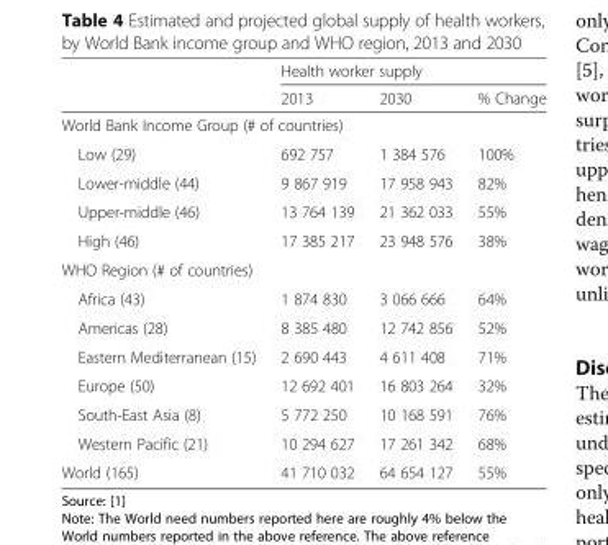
<table><thead><tr><td rowspan="2"></td><td colspan="3">Health worker supply</td></tr><tr><td>2013</td><td>2030</td><td>% Change</td></tr></thead><tbody><tr><td colspan="4">World Bank Income Group (# of countries)</td></tr><tr><td>Low (29)</td><td>692 757</td><td>1 384 576</td><td>100%</td></tr><tr><td>Lower-middle (44)</td><td>9 867 919</td><td>17 958 943</td><td>82%</td></tr><tr><td>Upper-middle (46)</td><td>13 764 139</td><td>21 362 033</td><td>55%</td></tr><tr><td>High (46)</td><td>17 385 217</td><td>23 948 576</td><td>38%</td></tr><tr><td colspan="4">WHO Region (# of countries)</td></tr><tr><td>Africa (43)</td><td>1 874 830</td><td>3 066 666</td><td>64%</td></tr><tr><td>Americas (28)</td><td>8 385 480</td><td>12 742 856</td><td>52%</td></tr><tr><td>Eastern Mediterranean (15)</td><td>2 690 443</td><td>4 611 408</td><td>71%</td></tr><tr><td>Europe (50)</td><td>12 692 401</td><td>16 803 264</td><td>32%</td></tr><tr><td>South-East Asia (8)</td><td>5 772 250</td><td>10 168 591</td><td>76%</td></tr><tr><td>Western Pacific (21)</td><td>10 294 627</td><td>17 261 342</td><td>68%</td></tr><tr><td>World (165)</td><td>41 710 032</td><td>64 654 127</td><td>55%</td></tr></tbody></table>